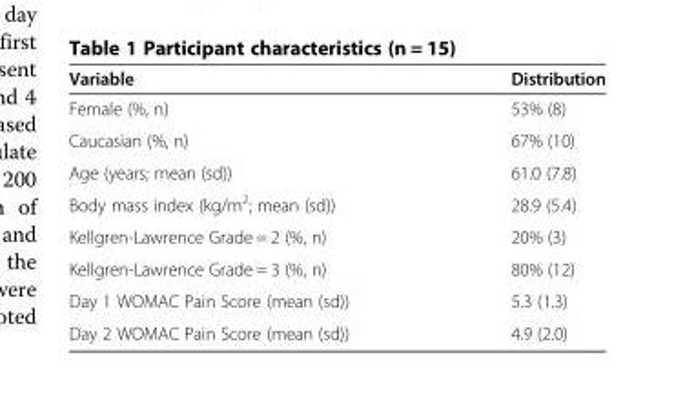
<table><thead><tr><td>Variable</td><td>Distribution</td></tr></thead><tbody><tr><td>Female (%, n)</td><td>53% (8)</td></tr><tr><td>Caucasian (%, n)</td><td>67% (10)</td></tr><tr><td>Age (years; mean (sd))</td><td>61.0 (7.8)</td></tr><tr><td>Body mass index (kg/m<sup>2</sup>; mean (sd))</td><td>28.9 (5.4)</td></tr><tr><td>Kellgren-Lawrence Grade = 2 (%, n)</td><td>20% (3)</td></tr><tr><td>Kellgren-Lawrence Grade = 3 (%, n)</td><td>80% (12)</td></tr><tr><td>Day 1 WOMAC Pain Score (mean (sd))</td><td>5.3 (1.3)</td></tr><tr><td>Day 2 WOMAC Pain Score (mean (sd))</td><td>4.9 (2.0)</td></tr></tbody></table>